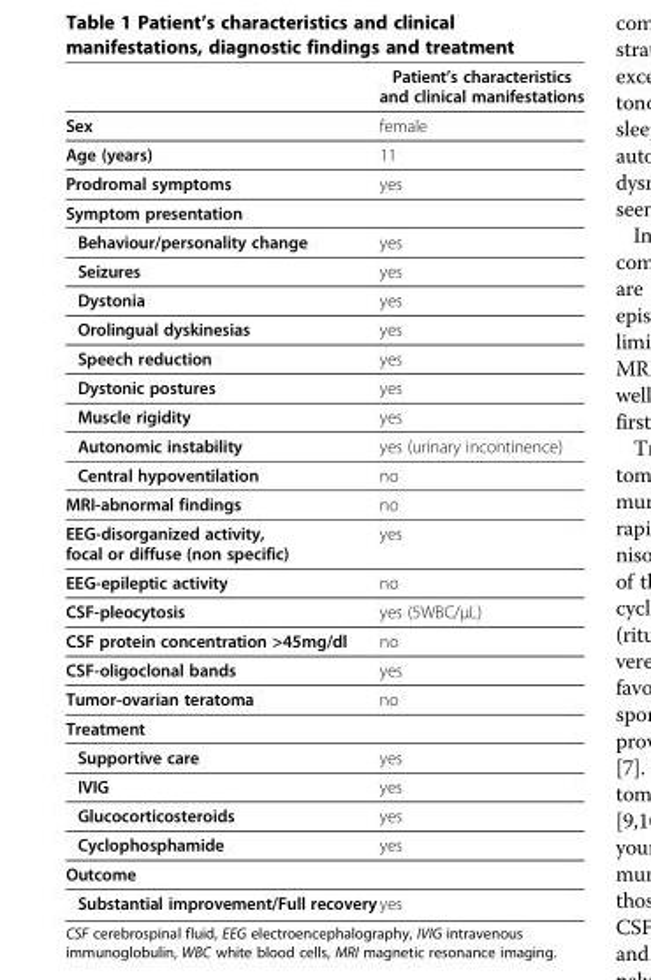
<table><thead><tr><td></td><td>Patient’s characteristics and clinical manifestations</td></tr></thead><tbody><tr><td>Sex</td><td>female</td></tr><tr><td>Age (years)</td><td>11</td></tr><tr><td>Prodromal symptoms</td><td>yes</td></tr><tr><td colspan="2">Symptom presentation</td></tr><tr><td>Behaviour/personality change</td><td>yes</td></tr><tr><td>Seizures</td><td>yes</td></tr><tr><td>Dystonia</td><td>yes</td></tr><tr><td>Orolingual dyskinesias</td><td>yes</td></tr><tr><td>Speech reduction</td><td>yes</td></tr><tr><td>Dystonic postures</td><td>yes</td></tr><tr><td>Muscle rigidity</td><td>yes</td></tr><tr><td>Autonomic instability</td><td>yes (urinary incontinence)</td></tr><tr><td>Central hypoventilation</td><td>no</td></tr><tr><td>MRI-abnormal findings</td><td>no</td></tr><tr><td>EEG-disorganized activity, focal or diffuse (non specific)</td><td>yes</td></tr><tr><td>EEG-epileptic activity</td><td>no</td></tr><tr><td>CSF-pleocytosis</td><td>yes (5WBC/μL)</td></tr><tr><td>CSF protein concentration &gt;45mg/dl</td><td>no</td></tr><tr><td>CSF-oligoclonal bands</td><td>yes</td></tr><tr><td>Tumor-ovarian teratoma</td><td>no</td></tr><tr><td colspan="2">Treatment</td></tr><tr><td>Supportive care</td><td>yes</td></tr><tr><td>IVIG</td><td>yes</td></tr><tr><td>Glucocorticosteroids</td><td>yes</td></tr><tr><td>Cyclophosphamide</td><td>yes</td></tr><tr><td colspan="2">Outcome</td></tr><tr><td>Substantial improvement/Full recovery</td><td>yes</td></tr></tbody></table>